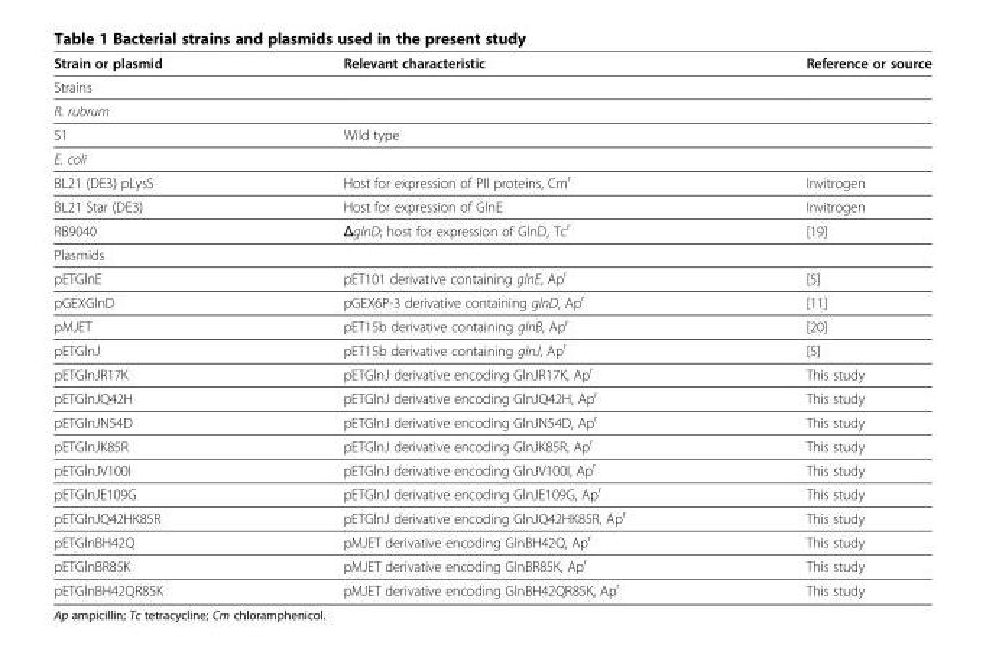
<table><thead><tr><td>Strain or plasmid</td><td>Relevant characteristic</td><td>Reference or source</td></tr></thead><tbody><tr><td colspan="3">Strains</td></tr><tr><td colspan="3">R. rubrum</td></tr><tr><td>S1</td><td>Wild type</td><td></td></tr><tr><td colspan="3">E. coli</td></tr><tr><td>BL21 (DE3) pLysS</td><td>Host for expression of PII proteins, Cm<sup>r</sup></td><td>Invitrogen</td></tr><tr><td>BL21 Star (DE3)</td><td>Host for expression of GlnE</td><td>Invitrogen</td></tr><tr><td>RB9040</td><td>ΔglnD; host for expression of GlnD, Tc<sup>r</sup></td><td>[19]</td></tr><tr><td colspan="3">Plasmids</td></tr><tr><td>pETGlnE</td><td>pET101 derivative containing glnE, Ap<sup>r</sup></td><td>[5]</td></tr><tr><td>pGEXGlnD</td><td>pGEX6P-3 derivative containing glnD, Ap<sup>r</sup></td><td>[11]</td></tr><tr><td>pMJET</td><td>pET15b derivative containing glnB, Ap<sup>r</sup></td><td>[20]</td></tr><tr><td>pETGlnJ</td><td>pET15b derivative containing glnJ, Ap<sup>r</sup></td><td>[5]</td></tr><tr><td>pETGlnJR17K</td><td>pETGlnJ derivative encoding GlnJR17K, Ap<sup>r</sup></td><td>This study</td></tr><tr><td>pETGlnJQ42H</td><td>pETGlnJ derivative encoding GlnJQ42H, Ap<sup>r</sup></td><td>This study</td></tr><tr><td>pETGlnJN54D</td><td>pETGlnJ derivative encoding GlnJN54D, Ap<sup>r</sup></td><td>This study</td></tr><tr><td>pETGlnJK85R</td><td>pETGlnJ derivative encoding GlnJK85R, Ap<sup>r</sup></td><td>This study</td></tr><tr><td>pETGlnJV100I</td><td>pETGlnJ derivative encoding GlnJV100I, Ap<sup>r</sup></td><td>This study</td></tr><tr><td>pETGlnJE109G</td><td>pETGlnJ derivative encoding GlnJE109G, Ap<sup>r</sup></td><td>This study</td></tr><tr><td>pETGlnJQ42HK85R</td><td>pETGlnJ derivative encoding GlnJQ42HK85R, Ap<sup>r</sup></td><td>This study</td></tr><tr><td>pETGlnBH42Q</td><td>pMJET derivative encoding GlnBH42Q, Ap<sup>r</sup></td><td>This study</td></tr><tr><td>pETGlnBR85K</td><td>pMJET derivative encoding GlnBR85K, Ap<sup>r</sup></td><td>This study</td></tr><tr><td>pETGlnBH42QR85K</td><td>pMJET derivative encoding GlnBH42QR85K, Ap<sup>r</sup></td><td>This study</td></tr></tbody></table>